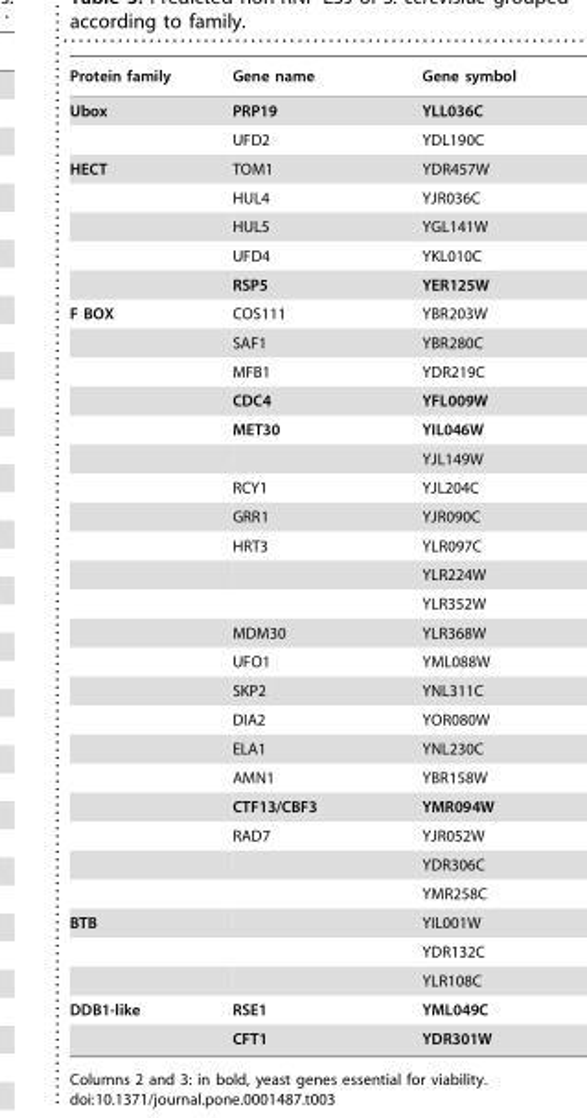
<table><thead><tr><td>Protein family</td><td>Gene name</td><td>Gene symbol</td></tr></thead><tbody><tr><td rowspan="2">Ubox</td><td>PRP19</td><td>YLL036C</td></tr><tr><td>UFD2</td><td>YDL190C</td></tr><tr><td rowspan="5">HECT</td><td>TOM1</td><td>YDR457W</td></tr><tr><td>HUL4</td><td>YJR036C</td></tr><tr><td>HUL5</td><td>YGL141W</td></tr><tr><td>UFD4</td><td>YKL010C</td></tr><tr><td>RSP5</td><td>YER125W</td></tr><tr><td rowspan="21">F BOX</td><td>COS111</td><td>YBR203W</td></tr><tr><td>SAF1</td><td>YBR280C</td></tr><tr><td>MFB1</td><td>YDR219C</td></tr><tr><td>CDC4</td><td>YFL009W</td></tr><tr><td>MET30</td><td>YIL046W</td></tr><tr><td></td><td>YJL149W</td></tr><tr><td>RCY1</td><td>YJL204C</td></tr><tr><td>GRR1</td><td>YJR090C</td></tr><tr><td>HRT3</td><td>YLR097C</td></tr><tr><td></td><td>YLR224W</td></tr><tr><td></td><td>YLR352W</td></tr><tr><td>MDM30</td><td>YLR368W</td></tr><tr><td>UFO1</td><td>YML088W</td></tr><tr><td>SKP2</td><td>YNL311C</td></tr><tr><td>DIA2</td><td>YOR080W</td></tr><tr><td>ELA1</td><td>YNL230C</td></tr><tr><td>AMN1</td><td>YBR158W</td></tr><tr><td>CTF13/CBF3</td><td>YMR094W</td></tr><tr><td>RAD7</td><td>YJR052W</td></tr><tr><td></td><td>YDR306C</td></tr><tr><td></td><td>YMR258C</td></tr><tr><td rowspan="3">BTB</td><td></td><td>YIL001W</td></tr><tr><td></td><td>YDR132C</td></tr><tr><td></td><td>YLR108C</td></tr><tr><td rowspan="2">DDB1-like</td><td>RSE1</td><td>YML049C</td></tr><tr><td>CFT1</td><td>YDR301W</td></tr></tbody></table>